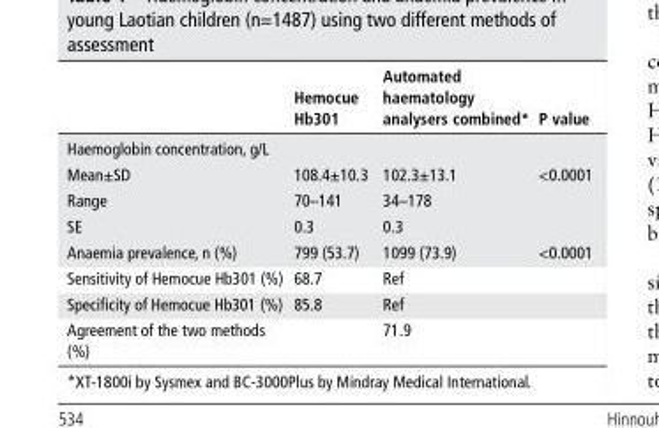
<table><thead><tr><td></td><td>hemocue hb301</td><td>Automated haematology analysers combined*</td><td>P value</td></tr></thead><tbody><tr><td colspan="4">Haemoglobin concentration, g/L</td></tr><tr><td>Mean±SD</td><td>108.4±10.3</td><td>102.3±13.1</td><td>&lt;0.0001</td></tr><tr><td>Range</td><td>70–141</td><td>34–178</td><td></td></tr><tr><td>SE</td><td>0.3</td><td>0.3</td><td></td></tr><tr><td>Anaemia prevalence, n (%)</td><td>799 (53.7)</td><td>1099 (73.9)</td><td>&lt;0.0001</td></tr><tr><td>Sensitivity of Hemocue Hb301 (%)</td><td>68.7</td><td>Ref</td><td></td></tr><tr><td>Specificity of Hemocue Hb301 (%)</td><td>85.8</td><td>Ref</td><td></td></tr><tr><td>Agreement of the two methods (%)</td><td></td><td>71.9</td><td></td></tr></tbody></table>